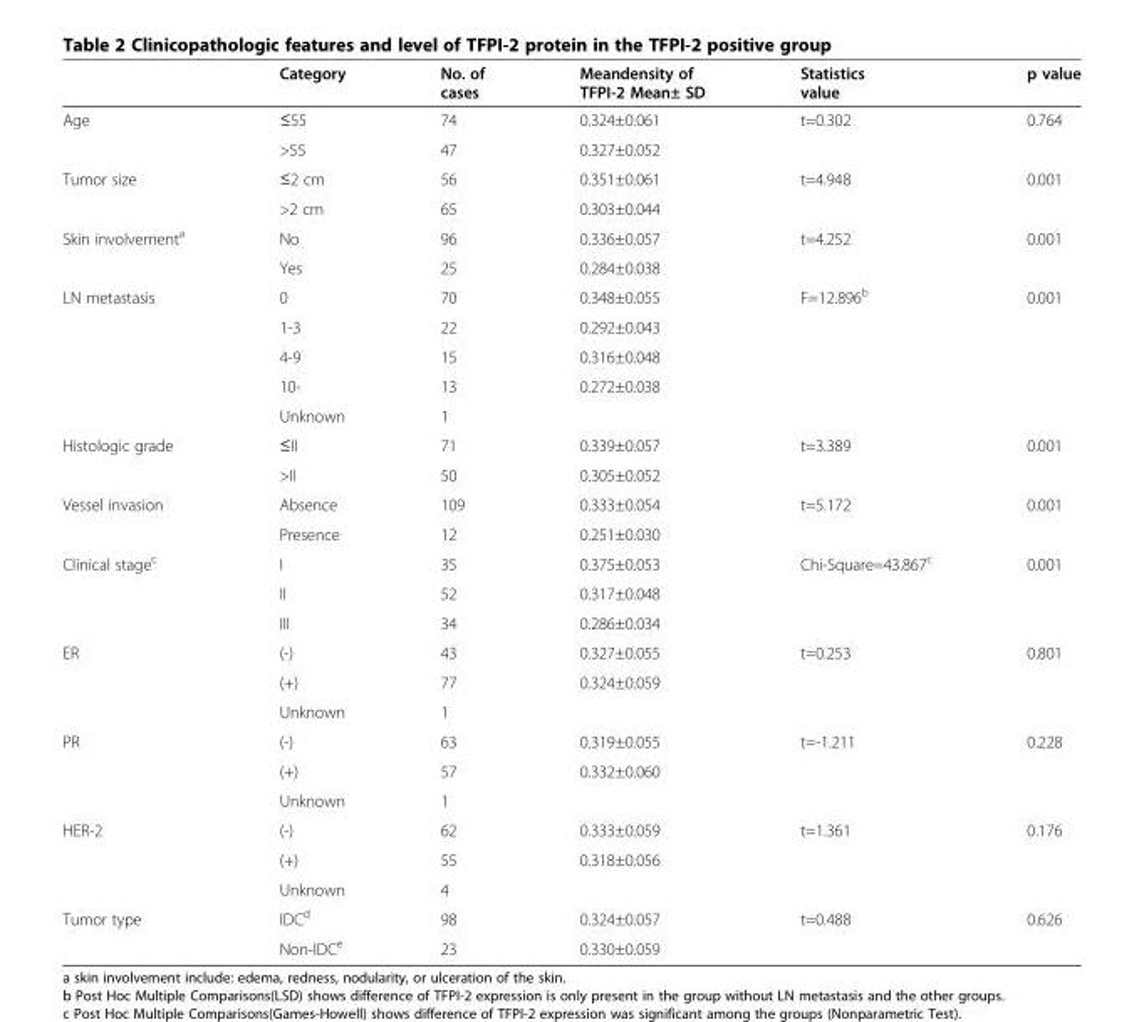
<table><thead><tr><td></td><td>Category</td><td>No. of cases</td><td>Meandensity of TFPI-2 Mean± SD</td><td>Statistics value</td><td>p value</td></tr></thead><tbody><tr><td rowspan="2">Age</td><td>≤55</td><td>74</td><td>0.324±0.061</td><td>t=0.302</td><td>0.764</td></tr><tr><td>&gt;55</td><td>47</td><td>0.327±0.052</td><td></td><td></td></tr><tr><td rowspan="2">Tumor size</td><td>≤2 cm</td><td>56</td><td>0.351±0.061</td><td>t=4.948</td><td>0.001</td></tr><tr><td>&gt;2 cm</td><td>65</td><td>0.303±0.044</td><td></td><td></td></tr><tr><td rowspan="2">Skin involvement<sup>a</sup></td><td>No</td><td>96</td><td>0.336±0.057</td><td>t=4.252</td><td>0.001</td></tr><tr><td>Yes</td><td>25</td><td>0.284±0.038</td><td></td><td></td></tr><tr><td rowspan="5">LN metastasis</td><td>0</td><td>70</td><td>0.348±0.055</td><td>F=12.896<sup>b</sup></td><td>0.001</td></tr><tr><td>1-3</td><td>22</td><td>0.292±0.043</td><td></td><td></td></tr><tr><td>4-9</td><td>15</td><td>0.316±0.048</td><td></td><td></td></tr><tr><td>10-</td><td>13</td><td>0.272±0.038</td><td></td><td></td></tr><tr><td>Unknown</td><td>1</td><td></td><td></td><td></td></tr><tr><td rowspan="2">Histologic grade</td><td>≤II</td><td>71</td><td>0.339±0.057</td><td>t=3.389</td><td>0.001</td></tr><tr><td>&gt;II</td><td>50</td><td>0.305±0.052</td><td></td><td></td></tr><tr><td rowspan="2">Vessel invasion</td><td>Absence</td><td>109</td><td>0.333±0.054</td><td>t=5.172</td><td>0.001</td></tr><tr><td>Presence</td><td>12</td><td>0.251±0.030</td><td></td><td></td></tr><tr><td rowspan="3">Clinical stage<sup>c</sup></td><td>I</td><td>35</td><td>0.375±0.053</td><td>Chi-Square=43.867<sup>c</sup></td><td>0.001</td></tr><tr><td>II</td><td>52</td><td>0.317±0.048</td><td></td><td></td></tr><tr><td>III</td><td>34</td><td>0.286±0.034</td><td></td><td></td></tr><tr><td rowspan="3">ER</td><td>(-)</td><td>43</td><td>0.327±0.055</td><td>t=0.253</td><td>0.801</td></tr><tr><td>(+)</td><td>77</td><td>0.324±0.059</td><td></td><td></td></tr><tr><td>Unknown</td><td>1</td><td></td><td></td><td></td></tr><tr><td rowspan="3">PR</td><td>(-)</td><td>63</td><td>0.319±0.055</td><td>t=-1.211</td><td>0.228</td></tr><tr><td>(+)</td><td>57</td><td>0.332±0.060</td><td></td><td></td></tr><tr><td>Unknown</td><td>1</td><td></td><td></td><td></td></tr><tr><td rowspan="3">HER-2</td><td>(-)</td><td>62</td><td>0.333±0.059</td><td>t=1.361</td><td>0.176</td></tr><tr><td>(+)</td><td>55</td><td>0.318±0.056</td><td></td><td></td></tr><tr><td>Unknown</td><td>4</td><td></td><td></td><td></td></tr><tr><td rowspan="2">Tumor type</td><td>IDC<sup>d</sup></td><td>98</td><td>0.324±0.057</td><td>t=0.488</td><td>0.626</td></tr><tr><td>Non-IDC<sup>e</sup></td><td>23</td><td>0.330±0.059</td><td></td><td></td></tr></tbody></table>